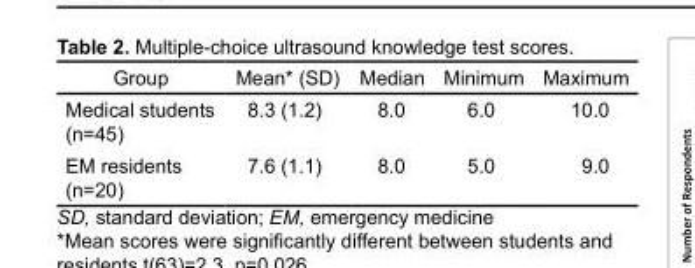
<table><thead><tr><td>Group</td><td>Mean* (SD)</td><td>Median</td><td>Minimum</td><td>Maximum</td></tr></thead><tbody><tr><td>Medical students (n=45)</td><td>8.3 (1.2)</td><td>8.0</td><td>6.0</td><td>10.0</td></tr><tr><td>EM residents (n=20)</td><td>7.6 (1.1)</td><td>8.0</td><td>5.0</td><td>9.0</td></tr></tbody></table>